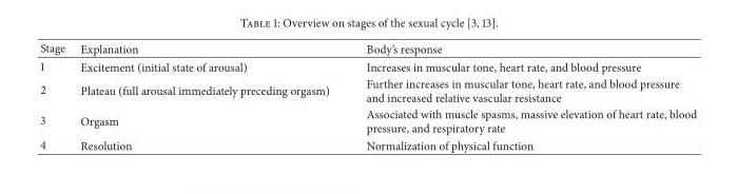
<table><thead><tr><td>Stage</td><td>Explanation</td><td>Body’s response</td></tr></thead><tbody><tr><td>1</td><td>Excitement (initial state of arousal)</td><td>Increases in muscular tone, heart rate, and blood pressure</td></tr><tr><td>2</td><td>Plateau (full arousal immediately preceding orgasm)</td><td>Further increases in muscular tone, heart rate, and blood pressure and increased relative vascular resistance</td></tr><tr><td>3</td><td>Orgasm</td><td>Associated with muscle spasms, massive elevation of heart rate, blood pressure, and respiratory rate</td></tr><tr><td>4</td><td>Resolution</td><td>Normalization of physical function</td></tr></tbody></table>